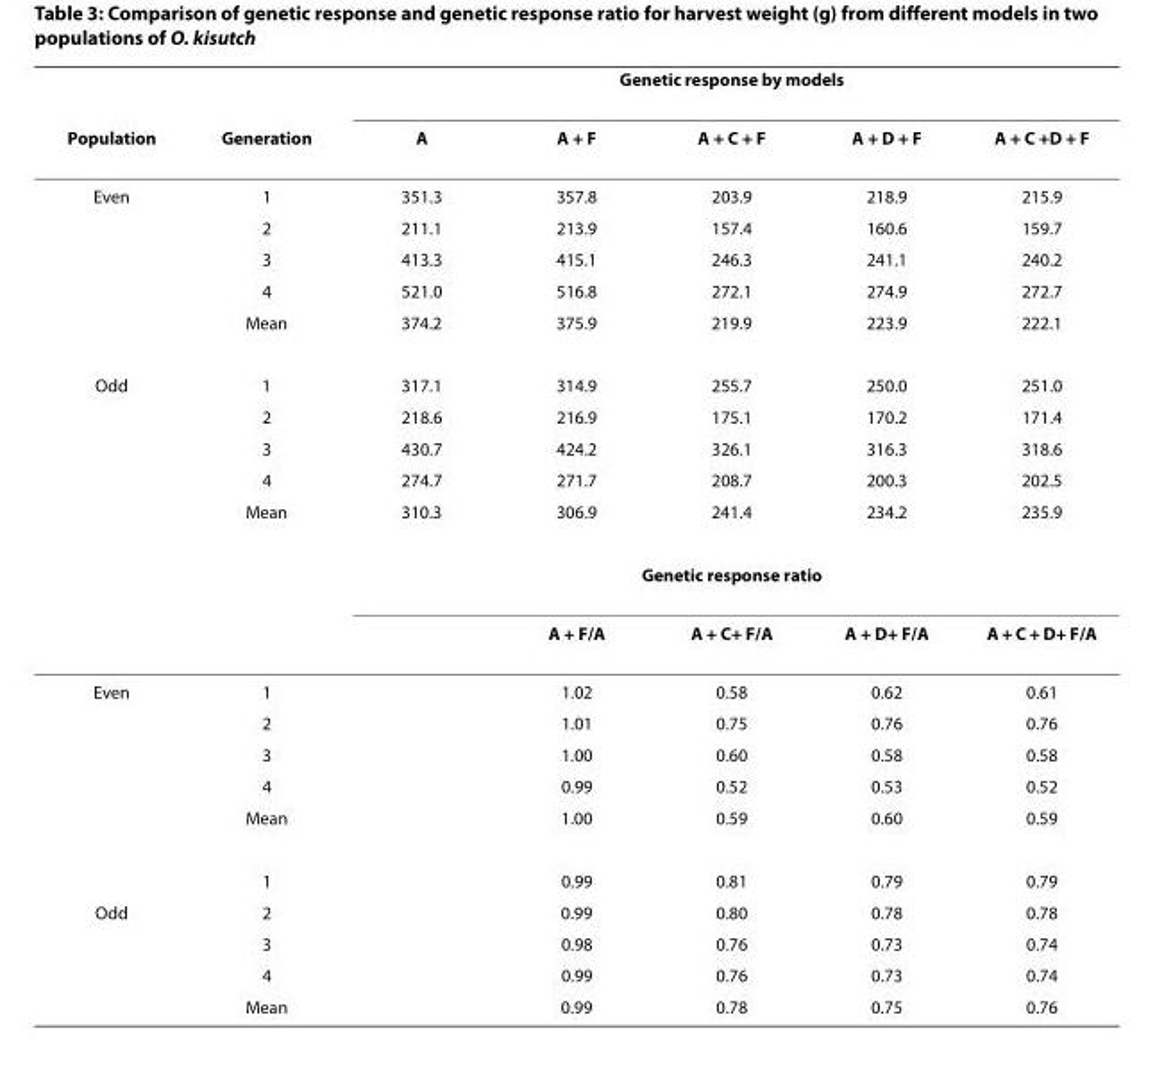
<table><thead><tr><td rowspan="2">Population</td><td rowspan="2">Generation</td><td colspan="5">Genetic response by models</td></tr><tr><td>A</td><td>A + F</td><td>A + C + F</td><td>A + D + F</td><td>A + C +D + F</td></tr></thead><tbody><tr><td rowspan="5">Even</td><td>1</td><td>351.3</td><td>357.8</td><td>203.9</td><td>218.9</td><td>215.9</td></tr><tr><td>2</td><td>211.1</td><td>213.9</td><td>157.4</td><td>160.6</td><td>159.7</td></tr><tr><td>3</td><td>413.3</td><td>415.1</td><td>246.3</td><td>241.1</td><td>240.2</td></tr><tr><td>4</td><td>521.0</td><td>516.8</td><td>272.1</td><td>274.9</td><td>272.7</td></tr><tr><td>Mean</td><td>374.2</td><td>375.9</td><td>219.9</td><td>223.9</td><td>222.1</td></tr><tr><td rowspan="7">Odd</td><td>1</td><td>317.1</td><td>314.9</td><td>255.7</td><td>250.0</td><td>251.0</td></tr><tr><td>2</td><td>218.6</td><td>216.9</td><td>175.1</td><td>170.2</td><td>171.4</td></tr><tr><td>3</td><td>430.7</td><td>424.2</td><td>326.1</td><td>316.3</td><td>318.6</td></tr><tr><td>4</td><td>274.7</td><td>271.7</td><td>208.7</td><td>200.3</td><td>202.5</td></tr><tr><td>Mean</td><td>310.3</td><td>306.9</td><td>241.4</td><td>234.2</td><td>235.9</td></tr><tr><td></td><td colspan="5">Genetic response ratio</td></tr><tr><td></td><td></td><td>A + F/A</td><td>A + C+ F/A</td><td>A + D+ F/A</td><td>A + C + D+ F/A</td></tr><tr><td rowspan="6">Even</td><td>1</td><td></td><td>1.02</td><td>0.58</td><td>0.62</td><td>0.61</td></tr><tr><td>2</td><td></td><td>1.01</td><td>0.75</td><td>0.76</td><td>0.76</td></tr><tr><td>3</td><td></td><td>1.00</td><td>0.60</td><td>0.58</td><td>0.58</td></tr><tr><td>4</td><td></td><td>0.99</td><td>0.52</td><td>0.53</td><td>0.52</td></tr><tr><td>Mean</td><td></td><td>1.00</td><td>0.59</td><td>0.60</td><td>0.59</td></tr><tr><td>1</td><td></td><td>0.99</td><td>0.81</td><td>0.79</td><td>0.79</td></tr><tr><td rowspan="4">Odd</td><td>2</td><td></td><td>0.99</td><td>0.80</td><td>0.78</td><td>0.78</td></tr><tr><td>3</td><td></td><td>0.98</td><td>0.76</td><td>0.73</td><td>0.74</td></tr><tr><td>4</td><td></td><td>0.99</td><td>0.76</td><td>0.73</td><td>0.74</td></tr><tr><td>Mean</td><td></td><td>0.99</td><td>0.78</td><td>0.75</td><td>0.76</td></tr></tbody></table>